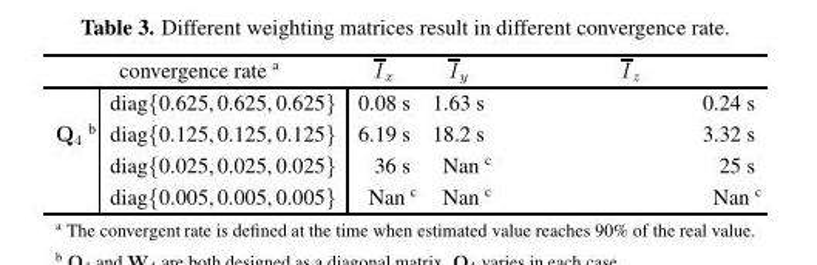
<table><thead><tr><td></td><td>convergence rate a</td><td>Ix</td><td>Iy</td><td>Iz</td></tr></thead><tbody><tr><td></td><td>diag{0.625, 0.625, 0.625}</td><td>0.08 s</td><td>1.63 s</td><td>0.24 s</td></tr><tr><td rowspan="3">Q<sub>4</sub> <sup>b</sup></td><td>diag{0.125, 0.125, 0.125}</td><td>6.19 s</td><td>18.2 s</td><td>3.32 s</td></tr><tr><td>diag{0.025, 0.025, 0.025}</td><td>36 s</td><td>Nan c</td><td>25 s</td></tr><tr><td>diag{0.005, 0.005, 0.005}</td><td>Nan c</td><td>Nan c</td><td>Nan c</td></tr></tbody></table>